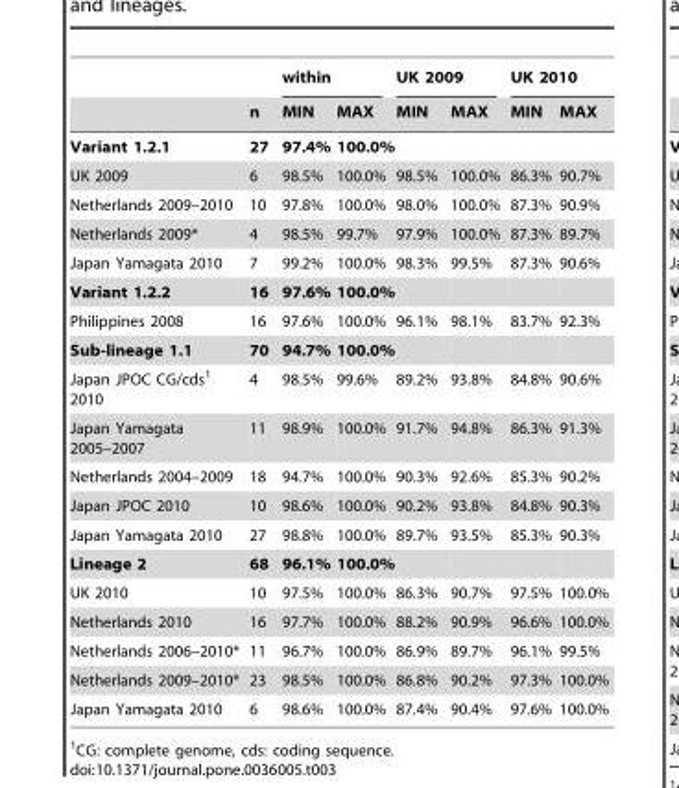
<table><thead><tr><td rowspan="2"></td><td rowspan="2">n</td><td colspan="2">within</td><td colspan="2">UK 2009</td><td colspan="2">UK 2010</td></tr><tr><td>MIN</td><td>MAX</td><td>MIN</td><td>MAX</td><td>MIN</td><td>MAX</td></tr></thead><tbody><tr><td>Variant 1.2.1</td><td>27</td><td>97.4%</td><td>100.0%</td><td></td><td></td><td></td><td></td></tr><tr><td>UK 2009</td><td>6</td><td>98.5%</td><td>100.0%</td><td>98.5%</td><td>100.0%</td><td>86.3%</td><td>90.7%</td></tr><tr><td>Netherlands 2009–2010</td><td>10</td><td>97.8%</td><td>100.0%</td><td>98.0%</td><td>100.0%</td><td>87.3%</td><td>90.9%</td></tr><tr><td>Netherlands 2009*</td><td>4</td><td>98.5%</td><td>99.7%</td><td>97.9%</td><td>100.0%</td><td>87.3%</td><td>89.7%</td></tr><tr><td>Japan Yamagata 2010</td><td>7</td><td>99.2%</td><td>100.0%</td><td>98.3%</td><td>99.5%</td><td>87.3%</td><td>90.6%</td></tr><tr><td>Variant 1.2.2</td><td>16</td><td>97.6%</td><td>100.0%</td><td></td><td></td><td></td><td></td></tr><tr><td>Philippines 2008</td><td>16</td><td>97.6%</td><td>100.0%</td><td>96.1%</td><td>98.1%</td><td>83.7%</td><td>92.3%</td></tr><tr><td>Sub-lineage 1.1</td><td>70</td><td>94.7%</td><td>100.0%</td><td></td><td></td><td></td><td></td></tr><tr><td>Japan JPOC CG/cds<sup>1</sup> 2010</td><td>4</td><td>98.5%</td><td>99.6%</td><td>89.2%</td><td>93.8%</td><td>84.8%</td><td>90.6%</td></tr><tr><td>Japan Yamagata 2005–2007</td><td>11</td><td>98.9%</td><td>100.0%</td><td>91.7%</td><td>94.8%</td><td>86.3%</td><td>91.3%</td></tr><tr><td>Netherlands 2004–2009</td><td>18</td><td>94.7%</td><td>100.0%</td><td>90.3%</td><td>92.6%</td><td>85.3%</td><td>90.2%</td></tr><tr><td>Japan JPOC 2010</td><td>10</td><td>98.6%</td><td>100.0%</td><td>90.2%</td><td>93.8%</td><td>84.8%</td><td>90.3%</td></tr><tr><td>Japan Yamagata 2010</td><td>27</td><td>98.8%</td><td>100.0%</td><td>89.7%</td><td>93.5%</td><td>85.3%</td><td>90.3%</td></tr><tr><td>Lineage 2</td><td>68</td><td>96.1%</td><td>100.0%</td><td></td><td></td><td></td><td></td></tr><tr><td>UK 2010</td><td>10</td><td>97.5%</td><td>100.0%</td><td>86.3%</td><td>90.7%</td><td>97.5%</td><td>100.0%</td></tr><tr><td>Netherlands 2010</td><td>16</td><td>97.7%</td><td>100.0%</td><td>88.2%</td><td>90.9%</td><td>96.6%</td><td>100.0%</td></tr><tr><td>Netherlands 2006–2010*</td><td>11</td><td>96.7%</td><td>100.0%</td><td>86.9%</td><td>89.7%</td><td>96.1%</td><td>99.5%</td></tr><tr><td>Netherlands 2009–2010*</td><td>23</td><td>98.5%</td><td>100.0%</td><td>86.8%</td><td>90.2%</td><td>97.3%</td><td>100.0%</td></tr><tr><td>Japan Yamagata 2010</td><td>6</td><td>98.6%</td><td>100.0%</td><td>87.4%</td><td>90.4%</td><td>97.6%</td><td>100.0%</td></tr></tbody></table>